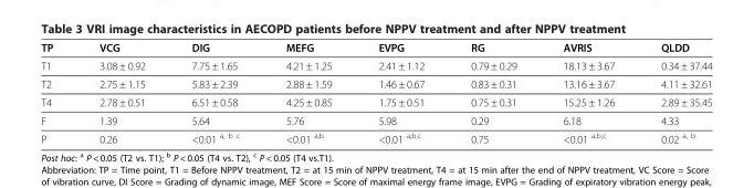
<table><thead><tr><td>TP</td><td>VCG</td><td>DIG</td><td>MEFG</td><td>EVPG</td><td>RG</td><td>AVRIS</td><td>QLDD</td></tr></thead><tbody><tr><td>T1</td><td>3.08 ± 0.92</td><td>7.75 ± 1.65</td><td>4.21 ± 1.25</td><td>2.41 ± 1.12</td><td>0.79 ± 0.29</td><td>18.13 ± 3.67</td><td>0.34 ± 37.44</td></tr><tr><td>T2</td><td>2.75 ± 1.15</td><td>5.83 ± 2.39</td><td>2.88 ± 1.59</td><td>1.46 ± 0.67</td><td>0.83 ± 0.31</td><td>13.16 ± 3.67</td><td>4.11 ± 32.61</td></tr><tr><td>T4</td><td>2.78 ± 0.51</td><td>6.51 ± 0.58</td><td>4.25 ± 0.85</td><td>1.75 ± 0.51</td><td>0.75 ± 0.31</td><td>15.25 ± 1.26</td><td>2.89 ± 35.45</td></tr><tr><td>F</td><td>1.39</td><td>5.64</td><td>5.76</td><td>5.98</td><td>0.29</td><td>6.18</td><td>4.33</td></tr><tr><td>P</td><td>0.26</td><td>&lt;0.01 <sup>a, b c</sup></td><td>&lt;0.01 <sup>a,b</sup></td><td>&lt;0.01 <sup>a,b,c</sup></td><td>0.75</td><td>&lt;0.01 <sup>a,b,c</sup></td><td>0.02 <sup>a, b</sup></td></tr></tbody></table>